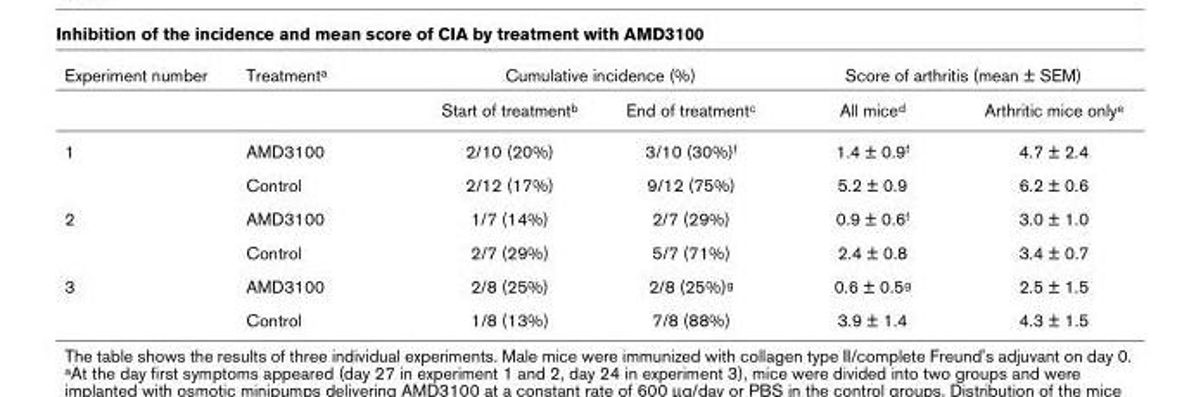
<table><thead><tr><td rowspan="2">Experiment number</td><td rowspan="2">Treatmenta</td><td colspan="2">Cumulative incidence (%)</td><td colspan="2">Score of arthritis (mean ± SEM)</td></tr><tr><td>Start of treatmentb</td><td>End of treatmentc</td><td>All miced</td><td>Arthritic mice onlye</td></tr></thead><tbody><tr><td rowspan="2">1</td><td>AMD3100</td><td>2/10 (20%)</td><td>3/10 (30%)f</td><td>1.4 ± 0.9f</td><td>4.7 ± 2.4</td></tr><tr><td>Control</td><td>2/12 (17%)</td><td>9/12 (75%)</td><td>5.2 ± 0.9</td><td>6.2 ± 0.6</td></tr><tr><td rowspan="2">2</td><td>AMD3100</td><td>1/7 (14%)</td><td>2/7 (29%)</td><td>0.9 ± 0.6f</td><td>3.0 ± 1.0</td></tr><tr><td>Control</td><td>2/7 (29%)</td><td>5/7 (71%)</td><td>2.4 ± 0.8</td><td>3.4 ± 0.7</td></tr><tr><td rowspan="2">3</td><td>AMD3100</td><td>2/8 (25%)</td><td>2/8 (25%)g</td><td>0.6 ± 0.5g</td><td>2.5 ± 1.5</td></tr><tr><td>Control</td><td>1/8 (13%)</td><td>7/8 (88%)</td><td>3.9 ± 1.4</td><td>4.3 ± 1.5</td></tr></tbody></table>